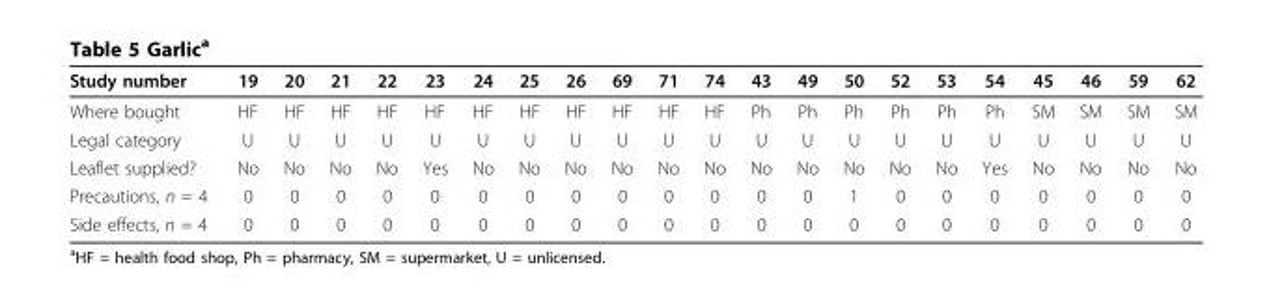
<table><thead><tr><td>Study number</td><td>19</td><td>20</td><td>21</td><td>22</td><td>23</td><td>24</td><td>25</td><td>26</td><td>69</td><td>71</td><td>74</td><td>43</td><td>49</td><td>50</td><td>52</td><td>53</td><td>54</td><td>45</td><td>46</td><td>59</td><td>62</td></tr></thead><tbody><tr><td>Where bought</td><td>HF</td><td>HF</td><td>HF</td><td>HF</td><td>HF</td><td>HF</td><td>HF</td><td>HF</td><td>HF</td><td>HF</td><td>HF</td><td>Ph</td><td>Ph</td><td>Ph</td><td>Ph</td><td>Ph</td><td>Ph</td><td>SM</td><td>SM</td><td>SM</td><td>SM</td></tr><tr><td>Legal category</td><td>U</td><td>U</td><td>U</td><td>U</td><td>U</td><td>U</td><td>U</td><td>U</td><td>U</td><td>U</td><td>U</td><td>U</td><td>U</td><td>U</td><td>U</td><td>U</td><td>U</td><td>U</td><td>U</td><td>U</td><td>U</td></tr><tr><td>Leaflet supplied?</td><td>No</td><td>No</td><td>No</td><td>No</td><td>Yes</td><td>No</td><td>No</td><td>No</td><td>No</td><td>No</td><td>No</td><td>No</td><td>No</td><td>No</td><td>No</td><td>No</td><td>Yes</td><td>No</td><td>No</td><td>No</td><td>No</td></tr><tr><td>Precautions, n = 4</td><td>0</td><td>0</td><td>0</td><td>0</td><td>0</td><td>0</td><td>0</td><td>0</td><td>0</td><td>0</td><td>0</td><td>0</td><td>0</td><td>1</td><td>0</td><td>0</td><td>0</td><td>0</td><td>0</td><td>0</td><td>0</td></tr><tr><td>Side effects, n = 4</td><td>0</td><td>0</td><td>0</td><td>0</td><td>0</td><td>0</td><td>0</td><td>0</td><td>0</td><td>0</td><td>0</td><td>0</td><td>0</td><td>0</td><td>0</td><td>0</td><td>0</td><td>0</td><td>0</td><td>0</td><td>0</td></tr></tbody></table>